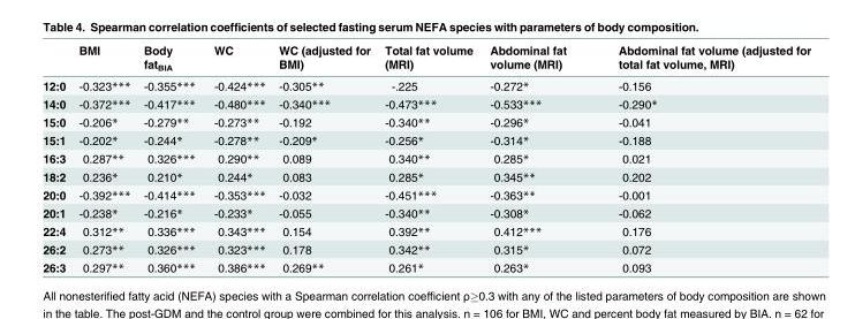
<table><thead><tr><td></td><td>BMI</td><td>Body fat<sub>BIA</sub></td><td>WC</td><td>WC (adjusted for BMI)</td><td>Total fat volume (MRI)</td><td>Abdominal fat volume (MRI)</td><td>Abdominal fat volume (adjusted for total fat volume, MRI)</td></tr></thead><tbody><tr><td>12:0</td><td>-0.323***</td><td>-0.355***</td><td>-0.424***</td><td>-0.305**</td><td>-.225</td><td>-0.272*</td><td>-0.156</td></tr><tr><td>14:0</td><td>-0.372***</td><td>-0.417***</td><td>-0.480***</td><td>-0.340***</td><td>-0.473***</td><td>-0.533***</td><td>-0.290*</td></tr><tr><td>15:0</td><td>-0.206*</td><td>-0.279**</td><td>-0.273**</td><td>-0.192</td><td>-0.340**</td><td>-0.296*</td><td>-0.041</td></tr><tr><td>15:1</td><td>-0.202*</td><td>-0.244*</td><td>-0.278**</td><td>-0.209*</td><td>-0.256*</td><td>-0.314*</td><td>-0.188</td></tr><tr><td>16:3</td><td>0.287**</td><td>0.326***</td><td>0.290**</td><td>0.089</td><td>0.340**</td><td>0.285*</td><td>0.021</td></tr><tr><td>18:2</td><td>0.236*</td><td>0.210*</td><td>0.244*</td><td>0.083</td><td>0.285*</td><td>0.345**</td><td>0.202</td></tr><tr><td>20:0</td><td>-0.392***</td><td>-0.414***</td><td>-0.353***</td><td>-0.032</td><td>-0.451***</td><td>-0.363**</td><td>-0.001</td></tr><tr><td>20:1</td><td>-0.238*</td><td>-0.216*</td><td>-0.233*</td><td>-0.055</td><td>-0.340**</td><td>-0.308*</td><td>-0.062</td></tr><tr><td>22:4</td><td>0.312**</td><td>0.336***</td><td>0.343***</td><td>0.154</td><td>0.392**</td><td>0.412***</td><td>0.176</td></tr><tr><td>26:2</td><td>0.273**</td><td>0.326***</td><td>0.323***</td><td>0.178</td><td>0.342**</td><td>0.315*</td><td>0.072</td></tr><tr><td>26:3</td><td>0.297**</td><td>0.360***</td><td>0.386***</td><td>0.269**</td><td>0.261*</td><td>0.263*</td><td>0.093</td></tr></tbody></table>